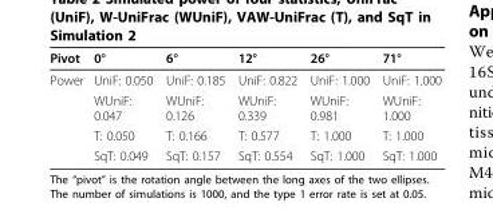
<table><thead><tr><td>Pivot</td><td>0°</td><td>6°</td><td>12°</td><td>26°</td><td>71°</td></tr></thead><tbody><tr><td rowspan="4">Power</td><td>UniF: 0.050</td><td>UniF: 0.185</td><td>UniF: 0.822</td><td>UniF: 1.000</td><td>UniF: 1.000</td></tr><tr><td>WUniF: 0.047</td><td>WUniF: 0.126</td><td>WUniF: 0.339</td><td>WUniF: 0.981</td><td>WUniF: 1.000</td></tr><tr><td>T: 0.050</td><td>T: 0.166</td><td>T: 0.577</td><td>T: 1.000</td><td>T: 1.000</td></tr><tr><td>SqT: 0.049</td><td>SqT: 0.157</td><td>SqT: 0.554</td><td>SqT: 1.000</td><td>SqT: 1.000</td></tr></tbody></table>